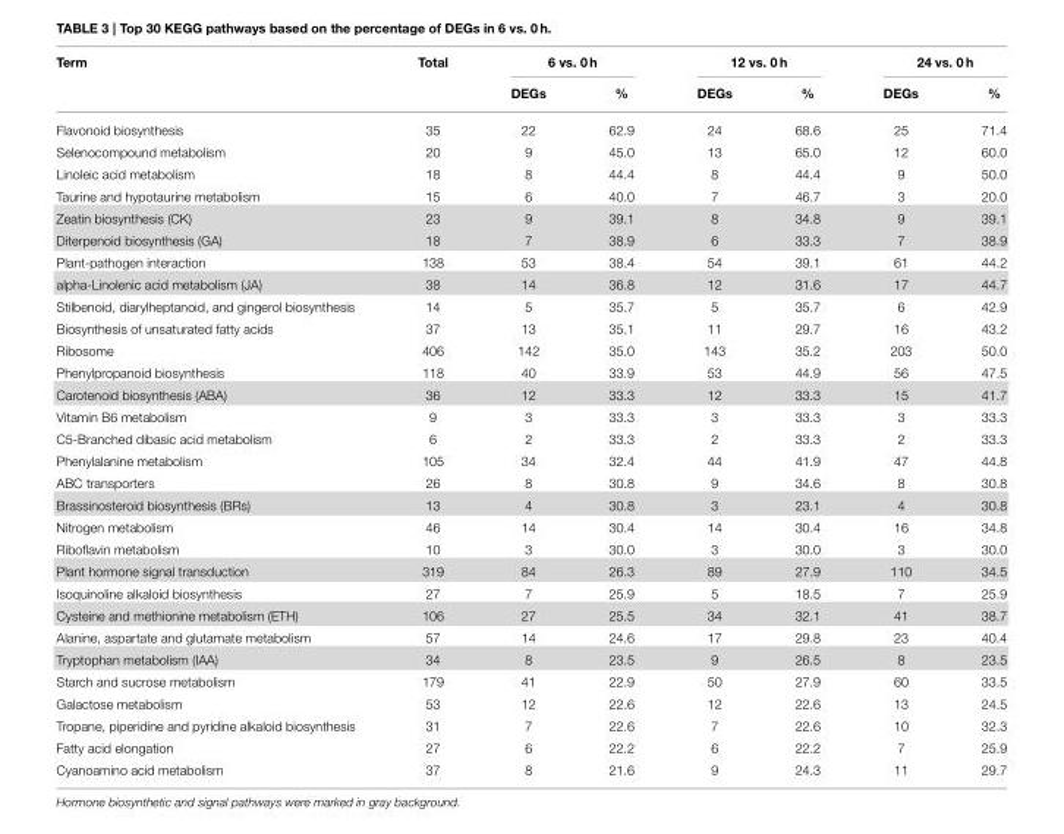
<table><thead><tr><td rowspan="2">Term</td><td rowspan="2">Total</td><td colspan="2">6 vs. 0 h</td><td colspan="2">12 vs. 0 h</td><td colspan="2">24 vs. 0 h</td></tr><tr><td>DEGs</td><td>%</td><td>DEGs</td><td>%</td><td>DEGs</td><td>%</td></tr></thead><tbody><tr><td>Flavonoid biosynthesis</td><td>35</td><td>22</td><td>62.9</td><td>24</td><td>68.6</td><td>25</td><td>71.4</td></tr><tr><td>Selenocompound metabolism</td><td>20</td><td>9</td><td>45.0</td><td>13</td><td>65.0</td><td>12</td><td>60.0</td></tr><tr><td>Linoleic acid metabolism</td><td>18</td><td>8</td><td>44.4</td><td>8</td><td>44.4</td><td>9</td><td>50.0</td></tr><tr><td>Taurine and hypotaurine metabolism</td><td>15</td><td>6</td><td>40.0</td><td>7</td><td>46.7</td><td>3</td><td>20.0</td></tr><tr><td>Zeatin biosynthesis (CK)</td><td>23</td><td>9</td><td>39.1</td><td>8</td><td>34.8</td><td>9</td><td>39.1</td></tr><tr><td>Diterpenoid biosynthesis (GA)</td><td>18</td><td>7</td><td>38.9</td><td>6</td><td>33.3</td><td>7</td><td>38.9</td></tr><tr><td>Plant-pathogen interaction</td><td>138</td><td>53</td><td>38.4</td><td>54</td><td>39.1</td><td>61</td><td>44.2</td></tr><tr><td>alpha-Linolenic acid metabolism (JA)</td><td>38</td><td>14</td><td>36.8</td><td>12</td><td>31.6</td><td>17</td><td>44.7</td></tr><tr><td>Stilbenoid, diarylheptanoid, and gingerol biosynthesis</td><td>14</td><td>5</td><td>35.7</td><td>5</td><td>35.7</td><td>6</td><td>42.9</td></tr><tr><td>Biosynthesis of unsaturated fatty acids</td><td>37</td><td>13</td><td>35.1</td><td>11</td><td>29.7</td><td>16</td><td>43.2</td></tr><tr><td>Ribosome</td><td>406</td><td>142</td><td>35.0</td><td>143</td><td>35.2</td><td>203</td><td>50.0</td></tr><tr><td>Phenylpropanoid biosynthesis</td><td>118</td><td>40</td><td>33.9</td><td>53</td><td>44.9</td><td>56</td><td>47.5</td></tr><tr><td>Carotenoid biosynthesis (ABA)</td><td>36</td><td>12</td><td>33.3</td><td>12</td><td>33.3</td><td>15</td><td>41.7</td></tr><tr><td>Vitamin B6 metabolism</td><td>9</td><td>3</td><td>33.3</td><td>3</td><td>33.3</td><td>3</td><td>33.3</td></tr><tr><td>C5-Branched dibasic acid metabolism</td><td>6</td><td>2</td><td>33.3</td><td>2</td><td>33.3</td><td>2</td><td>33.3</td></tr><tr><td>Phenylalanine metabolism</td><td>105</td><td>34</td><td>32.4</td><td>44</td><td>41.9</td><td>47</td><td>44.8</td></tr><tr><td>ABC transporters</td><td>26</td><td>8</td><td>30.8</td><td>9</td><td>34.6</td><td>8</td><td>30.8</td></tr><tr><td>Brassinosteroid biosynthesis (BRs)</td><td>13</td><td>4</td><td>30.8</td><td>3</td><td>23.1</td><td>4</td><td>30.8</td></tr><tr><td>Nitrogen metabolism</td><td>46</td><td>14</td><td>30.4</td><td>14</td><td>30.4</td><td>16</td><td>34.8</td></tr><tr><td>Riboflavin metabolism</td><td>10</td><td>3</td><td>30.0</td><td>3</td><td>30.0</td><td>3</td><td>30.0</td></tr><tr><td>Plant hormone signal transduction</td><td>319</td><td>84</td><td>26.3</td><td>89</td><td>27.9</td><td>110</td><td>34.5</td></tr><tr><td>Isoquinoline alkaloid biosynthesis</td><td>27</td><td>7</td><td>25.9</td><td>5</td><td>18.5</td><td>7</td><td>25.9</td></tr><tr><td>Cysteine and methionine metabolism (ETH)</td><td>106</td><td>27</td><td>25.5</td><td>34</td><td>32.1</td><td>41</td><td>38.7</td></tr><tr><td>Alanine, aspartate and glutamate metabolism</td><td>57</td><td>14</td><td>24.6</td><td>17</td><td>29.8</td><td>23</td><td>40.4</td></tr><tr><td>Tryptophan metabolism (IAA)</td><td>34</td><td>8</td><td>23.5</td><td>9</td><td>26.5</td><td>8</td><td>23.5</td></tr><tr><td>Starch and sucrose metabolism</td><td>179</td><td>41</td><td>22.9</td><td>50</td><td>27.9</td><td>60</td><td>33.5</td></tr><tr><td>Galactose metabolism</td><td>53</td><td>12</td><td>22.6</td><td>12</td><td>22.6</td><td>13</td><td>24.5</td></tr><tr><td>Tropane, piperidine and pyridine alkaloid biosynthesis</td><td>31</td><td>7</td><td>22.6</td><td>7</td><td>22.6</td><td>10</td><td>32.3</td></tr><tr><td>Fatty acid elongation</td><td>27</td><td>6</td><td>22.2</td><td>6</td><td>22.2</td><td>7</td><td>25.9</td></tr><tr><td>Cyanoamino acid metabolism</td><td>37</td><td>8</td><td>21.6</td><td>9</td><td>24.3</td><td>11</td><td>29.7</td></tr></tbody></table>